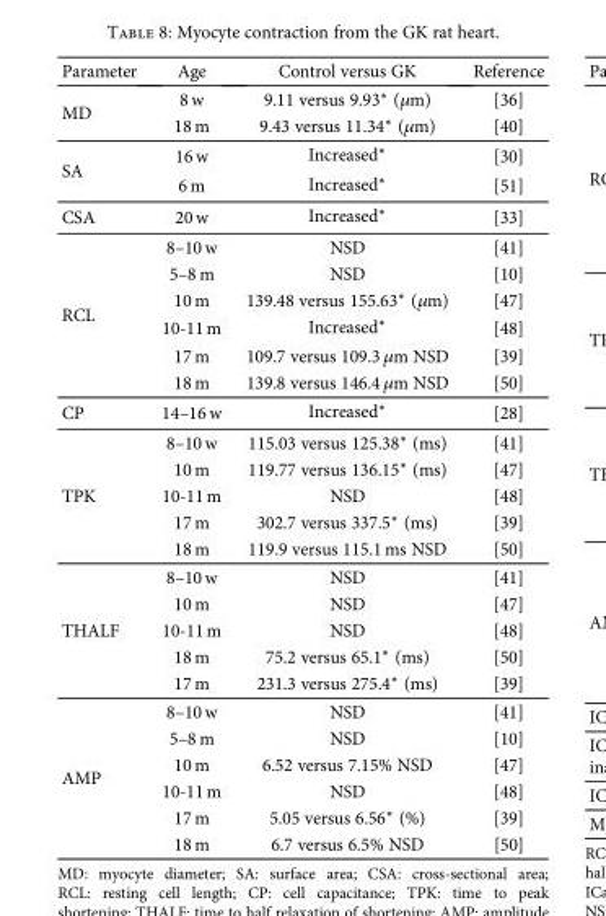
<table><thead><tr><td>Parameter</td><td>Age</td><td>Control versus GK</td><td>Reference</td></tr></thead><tbody><tr><td rowspan="2">MD</td><td>8 w</td><td>9.11 versus 9.93∗ (μm)</td><td>[36]</td></tr><tr><td>18 m</td><td>9.43 versus 11.34∗ (μm)</td><td>[40]</td></tr><tr><td rowspan="2">SA</td><td>16 w</td><td>Increased∗</td><td>[30]</td></tr><tr><td>6 m</td><td>Increased∗</td><td>[51]</td></tr><tr><td>CSA</td><td>20 w</td><td>Increased∗</td><td>[33]</td></tr><tr><td rowspan="6">RCL</td><td>8–10 w</td><td>NSD</td><td>[41]</td></tr><tr><td>5–8 m</td><td>NSD</td><td>[10]</td></tr><tr><td>10 m</td><td>139.48 versus 155.63∗ (μm)</td><td>[47]</td></tr><tr><td>10-11 m</td><td>Increased∗</td><td>[48]</td></tr><tr><td>17 m</td><td>109.7 versus 109.3 μm NSD</td><td>[39]</td></tr><tr><td>18 m</td><td>139.8 versus 146.4 μm NSD</td><td>[50]</td></tr><tr><td>CP</td><td>14–16 w</td><td>Increased∗</td><td>[28]</td></tr><tr><td rowspan="5">TPK</td><td>8–10 w</td><td>115.03 versus 125.38∗ (ms)</td><td>[41]</td></tr><tr><td>10 m</td><td>119.77 versus 136.15∗ (ms)</td><td>[47]</td></tr><tr><td>10-11 m</td><td>NSD</td><td>[48]</td></tr><tr><td>17 m</td><td>302.7 versus 337.5∗ (ms)</td><td>[39]</td></tr><tr><td>18 m</td><td>119.9 versus 115.1 ms NSD</td><td>[50]</td></tr><tr><td rowspan="5">THALF</td><td>8–10 w</td><td>NSD</td><td>[41]</td></tr><tr><td>10 m</td><td>NSD</td><td>[47]</td></tr><tr><td>10-11 m</td><td>NSD</td><td>[48]</td></tr><tr><td>18 m</td><td>75.2 versus 65.1∗ (ms)</td><td>[50]</td></tr><tr><td>17 m</td><td>231.3 versus 275.4∗ (ms)</td><td>[39]</td></tr><tr><td rowspan="6">AMP</td><td>8–10 w</td><td>NSD</td><td>[41]</td></tr><tr><td>5–8 m</td><td>NSD</td><td>[10]</td></tr><tr><td>10 m</td><td>6.52 versus 7.15% NSD</td><td>[47]</td></tr><tr><td>10-11 m</td><td>NSD</td><td>[48]</td></tr><tr><td>17 m</td><td>5.05 versus 6.56∗ (%)</td><td>[39]</td></tr><tr><td>18 m</td><td>6.7 versus 6.5% NSD</td><td>[50]</td></tr></tbody></table>